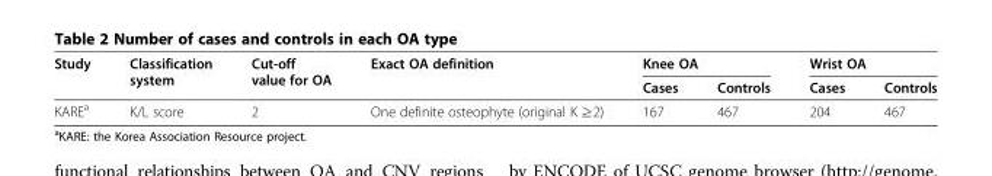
<table><thead><tr><td rowspan="2">Study</td><td rowspan="2">Classification system</td><td rowspan="2">Cut-off value for OA</td><td rowspan="2">Exact OA definition</td><td colspan="2">Knee OA</td><td colspan="2">Wrist OA</td></tr><tr><td>Cases</td><td>Controls</td><td>Cases</td><td>Controls</td></tr></thead><tbody><tr><td>KARE<sup>a</sup></td><td>K/L score</td><td>2</td><td>One definite osteophyte (original K ≥2)</td><td>167</td><td>467</td><td>204</td><td>467</td></tr></tbody></table>